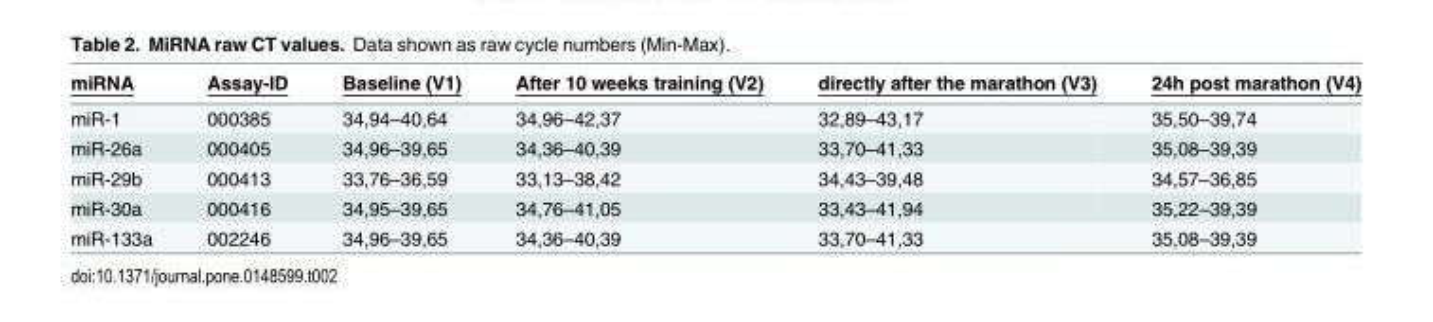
<table><thead><tr><td>miRNA</td><td>Assay-ID</td><td>Baseline (V1)</td><td>After 10 weeks training (V2)</td><td>directly after the marathon (V3)</td><td>24h post marathon (V4)</td></tr></thead><tbody><tr><td>miR-1</td><td>000385</td><td>34,94–40,64</td><td>34,96–42,37</td><td>32,89–43,17</td><td>35,50–39,74</td></tr><tr><td>miR-26a</td><td>000405</td><td>34,96–39,65</td><td>34,36–40,39</td><td>33,70–41,33</td><td>35,08–39,39</td></tr><tr><td>miR-29b</td><td>000413</td><td>33,76–36,59</td><td>33,13–38,42</td><td>34,43–39,48</td><td>34,57–36,85</td></tr><tr><td>miR-30a</td><td>000416</td><td>34,95–39,65</td><td>34,76–41,05</td><td>33,43–41,94</td><td>35,22–39,39</td></tr><tr><td>miR-133a</td><td>002246</td><td>34,96–39,65</td><td>34,36–40,39</td><td>33,70–41,33</td><td>35,08–39,39</td></tr></tbody></table>